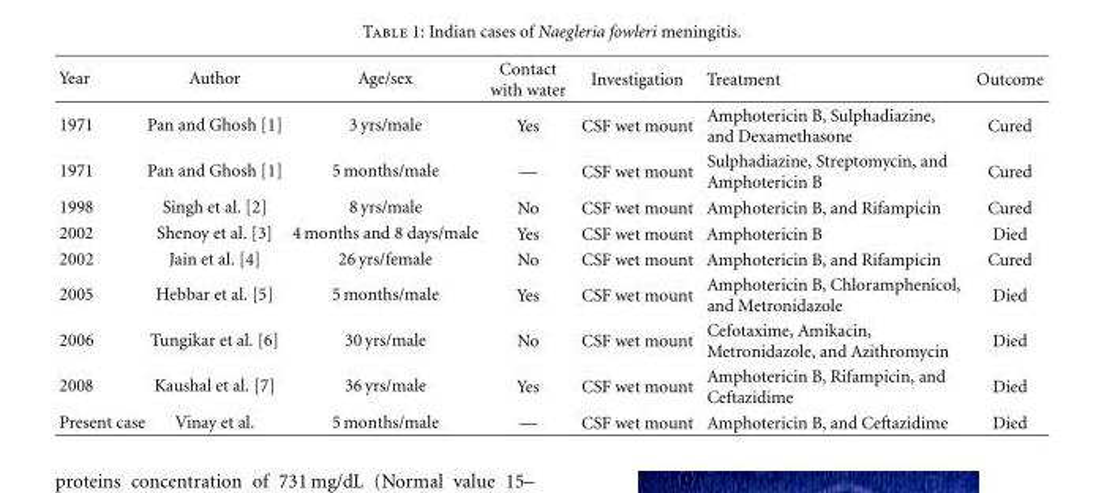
<table><thead><tr><td>Year</td><td>Author</td><td>Age/sex</td><td>Contact with water</td><td>Investigation</td><td>Treatment</td><td>Outcome</td></tr></thead><tbody><tr><td>1971</td><td>Pan and Ghosh [1]</td><td>3 yrs/male</td><td>Yes</td><td>CSF wet mount</td><td>Amphotericin B, Sulphadiazine, and Dexamethasone</td><td>Cured</td></tr><tr><td>1971</td><td>Pan and Ghosh [1]</td><td>5 months/male</td><td>—</td><td>CSF wet mount</td><td>Sulphadiazine, Streptomycin, and Amphotericin B</td><td>Cured</td></tr><tr><td>1998</td><td>Singh et al. [2]</td><td>8 yrs/male</td><td>No</td><td>CSF wet mount</td><td>Amphotericin B, and Rifampicin</td><td>Cured</td></tr><tr><td>2002</td><td>Shenoy et al. [3]</td><td>4 months and 8 days/male</td><td>Yes</td><td>CSF wet mount</td><td>Amphotericin B</td><td>Died</td></tr><tr><td>2002</td><td>Jain et al. [4]</td><td>26 yrs/female</td><td>No</td><td>CSF wet mount</td><td>Amphotericin B, and Rifampicin</td><td>Cured</td></tr><tr><td>2005</td><td>Hebbar et al. [5]</td><td>5 months/male</td><td>Yes</td><td>CSF wet mount</td><td>Amphotericin B, Chloramphenicol, and Metronidazole</td><td>Died</td></tr><tr><td>2006</td><td>Tungikar et al. [6]</td><td>30 yrs/male</td><td>No</td><td>CSF wet mount</td><td>Cefotaxime, Amikacin, Metronidazole, and Azithromycin</td><td>Died</td></tr><tr><td>2008</td><td>Kaushal et al. [7]</td><td>36 yrs/male</td><td>Yes</td><td>CSF wet mount</td><td>Amphotericin B, Rifampicin, and Ceftazidime</td><td>Died</td></tr><tr><td>Present case</td><td>Vinay et al.</td><td>5 months/male</td><td>—</td><td>CSF wet mount</td><td>Amphotericin B, and Ceftazidime</td><td>Died</td></tr></tbody></table>